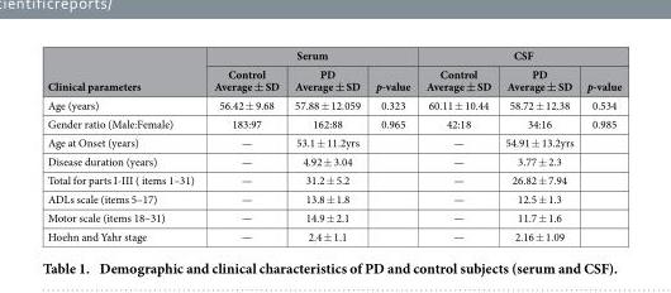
<table><thead><tr><td rowspan="2">Clinical parameters</td><td colspan="3">Serum</td><td colspan="3">CSF</td></tr><tr><td>Control Average ± SD</td><td>PD Average ± SD</td><td>p-value</td><td>Control Average ± SD</td><td>PD Average ± SD</td><td>p-value</td></tr></thead><tbody><tr><td>Age (years)</td><td>56.42 ± 9.68</td><td>57.88 ± 12.059</td><td>0.323</td><td>60.11 ± 10.44</td><td>58.72 ± 12.38</td><td>0.534</td></tr><tr><td>Gender ratio (Male:Female)</td><td>183:97</td><td>162:88</td><td>0.965</td><td>42:18</td><td>34:16</td><td>0.985</td></tr><tr><td>Age at Onset (years)</td><td>—</td><td>53.1 ± 11.2yrs</td><td></td><td>—</td><td>54.91 ± 13.2yrs</td><td></td></tr><tr><td>Disease duration (years)</td><td>—</td><td>4.92 ± 3.04</td><td></td><td>—</td><td>3.77 ± 2.3</td><td></td></tr><tr><td>Total for parts I-III ( items 1–31)</td><td>—</td><td>31.2 ± 5.2</td><td></td><td>—</td><td>26.82 ± 7.94</td><td></td></tr><tr><td>ADLs scale (items 5–17)</td><td>—</td><td>13.8 ± 1.8</td><td></td><td>—</td><td>12.5 ± 1.3</td><td></td></tr><tr><td>Motor scale (items 18–31)</td><td>—</td><td>14.9 ± 2.1</td><td></td><td>—</td><td>11.7 ± 1.6</td><td></td></tr><tr><td>Hoehn and Yahr stage</td><td>—</td><td>2.4 ± 1.1</td><td></td><td>—</td><td>2.16 ± 1.09</td><td></td></tr></tbody></table>